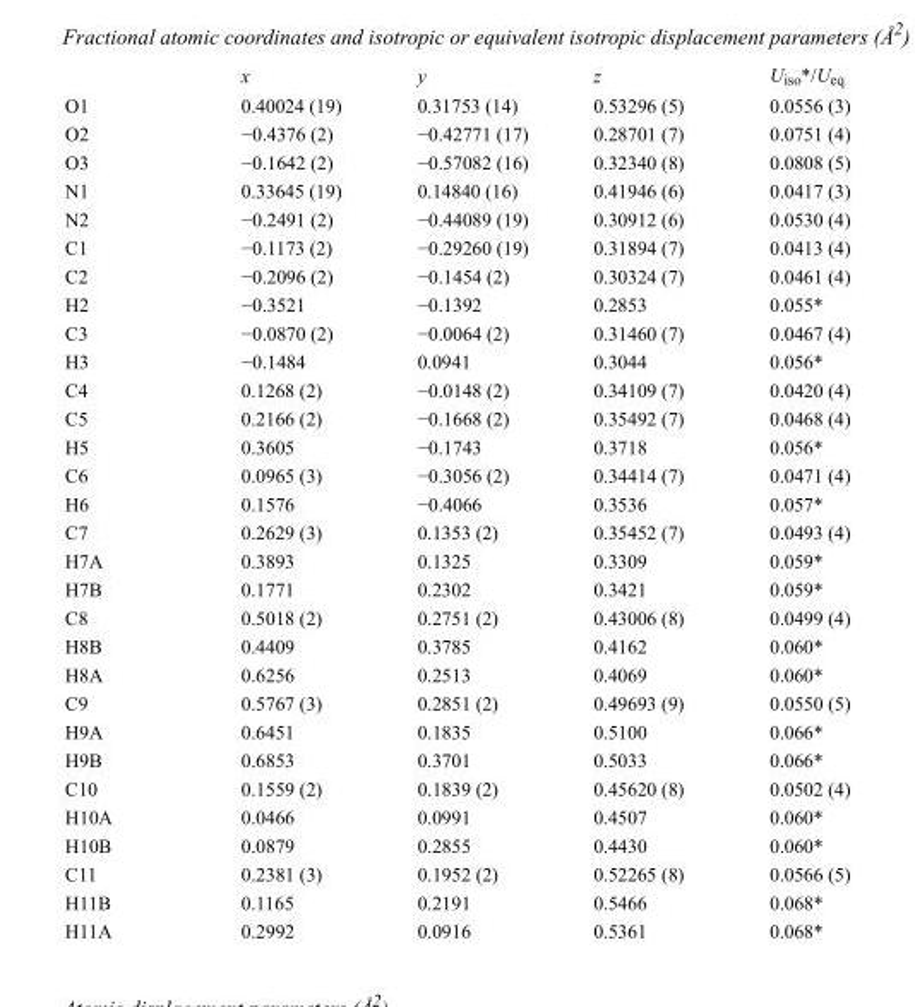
<table><thead><tr><td></td><td>x</td><td>y</td><td>z</td><td>U<sub>iso</sub>*/U<sub>eq</sub></td></tr></thead><tbody><tr><td>O1</td><td>0.40024 (19)</td><td>0.31753 (14)</td><td>0.53296 (5)</td><td>0.0556 (3)</td></tr><tr><td>O2</td><td>−0.4376 (2)</td><td>−0.42771 (17)</td><td>0.28701 (7)</td><td>0.0751 (4)</td></tr><tr><td>O3</td><td>−0.1642 (2)</td><td>−0.57082 (16)</td><td>0.32340 (8)</td><td>0.0808 (5)</td></tr><tr><td>N1</td><td>0.33645 (19)</td><td>0.14840 (16)</td><td>0.41946 (6)</td><td>0.0417 (3)</td></tr><tr><td>N2</td><td>−0.2491 (2)</td><td>−0.44089 (19)</td><td>0.30912 (6)</td><td>0.0530 (4)</td></tr><tr><td>C1</td><td>−0.1173 (2)</td><td>−0.29260 (19)</td><td>0.31894 (7)</td><td>0.0413 (4)</td></tr><tr><td>C2</td><td>−0.2096 (2)</td><td>−0.1454 (2)</td><td>0.30324 (7)</td><td>0.0461 (4)</td></tr><tr><td>H2</td><td>−0.3521</td><td>−0.1392</td><td>0.2853</td><td>0.055*</td></tr><tr><td>C3</td><td>−0.0870 (2)</td><td>−0.0064 (2)</td><td>0.31460 (7)</td><td>0.0467 (4)</td></tr><tr><td>H3</td><td>−0.1484</td><td>0.0941</td><td>0.3044</td><td>0.056*</td></tr><tr><td>C4</td><td>0.1268 (2)</td><td>−0.0148 (2)</td><td>0.34109 (7)</td><td>0.0420 (4)</td></tr><tr><td>C5</td><td>0.2166 (2)</td><td>−0.1668 (2)</td><td>0.35492 (7)</td><td>0.0468 (4)</td></tr><tr><td>H5</td><td>0.3605</td><td>−0.1743</td><td>0.3718</td><td>0.056*</td></tr><tr><td>C6</td><td>0.0965 (3)</td><td>−0.3056 (2)</td><td>0.34414 (7)</td><td>0.0471 (4)</td></tr><tr><td>H6</td><td>0.1576</td><td>−0.4066</td><td>0.3536</td><td>0.057*</td></tr><tr><td>C7</td><td>0.2629 (3)</td><td>0.1353 (2)</td><td>0.35452 (7)</td><td>0.0493 (4)</td></tr><tr><td>H7A</td><td>0.3893</td><td>0.1325</td><td>0.3309</td><td>0.059*</td></tr><tr><td>H7B</td><td>0.1771</td><td>0.2302</td><td>0.3421</td><td>0.059*</td></tr><tr><td>C8</td><td>0.5018 (2)</td><td>0.2751 (2)</td><td>0.43006 (8)</td><td>0.0499 (4)</td></tr><tr><td>H8B</td><td>0.4409</td><td>0.3785</td><td>0.4162</td><td>0.060*</td></tr><tr><td>H8A</td><td>0.6256</td><td>0.2513</td><td>0.4069</td><td>0.060*</td></tr><tr><td>C9</td><td>0.5767 (3)</td><td>0.2851 (2)</td><td>0.49693 (9)</td><td>0.0550 (5)</td></tr><tr><td>H9A</td><td>0.6451</td><td>0.1835</td><td>0.5100</td><td>0.066*</td></tr><tr><td>H9B</td><td>0.6853</td><td>0.3701</td><td>0.5033</td><td>0.066*</td></tr><tr><td>C10</td><td>0.1559 (2)</td><td>0.1839 (2)</td><td>0.45620 (8)</td><td>0.0502 (4)</td></tr><tr><td>H10A</td><td>0.0466</td><td>0.0991</td><td>0.4507</td><td>0.060*</td></tr><tr><td>H10B</td><td>0.0879</td><td>0.2855</td><td>0.4430</td><td>0.060*</td></tr><tr><td>C11</td><td>0.2381 (3)</td><td>0.1952 (2)</td><td>0.52265 (8)</td><td>0.0566 (5)</td></tr><tr><td>H11B</td><td>0.1165</td><td>0.2191</td><td>0.5466</td><td>0.068*</td></tr><tr><td>H11A</td><td>0.2992</td><td>0.0916</td><td>0.5361</td><td>0.068*</td></tr></tbody></table>